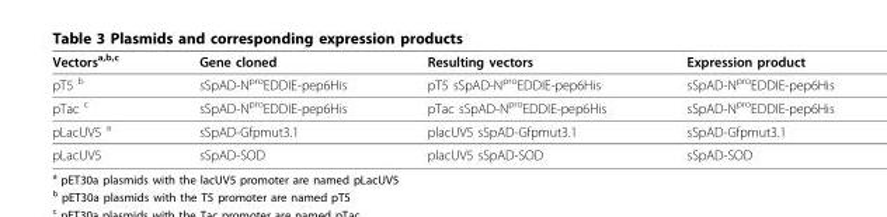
<table><thead><tr><td>Vectors<sup>a,b,c</sup></td><td>Gene cloned</td><td>Resulting vectors</td><td>Expression product</td></tr></thead><tbody><tr><td>pT5 <sup>b</sup></td><td>sSpAD-N<sup>pro</sup>EDDIE-pep6His</td><td>pT5 sSpAD-N<sup>pro</sup>EDDIE-pep6His</td><td>sSpAD-N<sup>pro</sup>EDDIE-pep6His</td></tr><tr><td>pTac <sup>c</sup></td><td>sSpAD-N<sup>pro</sup>EDDIE-pep6His</td><td>pTac sSpAD-N<sup>pro</sup>EDDIE-pep6His</td><td>sSpAD-N<sup>pro</sup>EDDIE-pep6His</td></tr><tr><td>pLacUV5 <sup>a</sup></td><td>sSpAD-Gfpmut3.1</td><td>placUV5 sSpAD-Gfpmut3.1</td><td>sSpAD-Gfpmut3.1</td></tr><tr><td>pLacUV5</td><td>sSpAD-SOD</td><td>placUV5 sSpAD-SOD</td><td>sSpAD-SOD</td></tr></tbody></table>